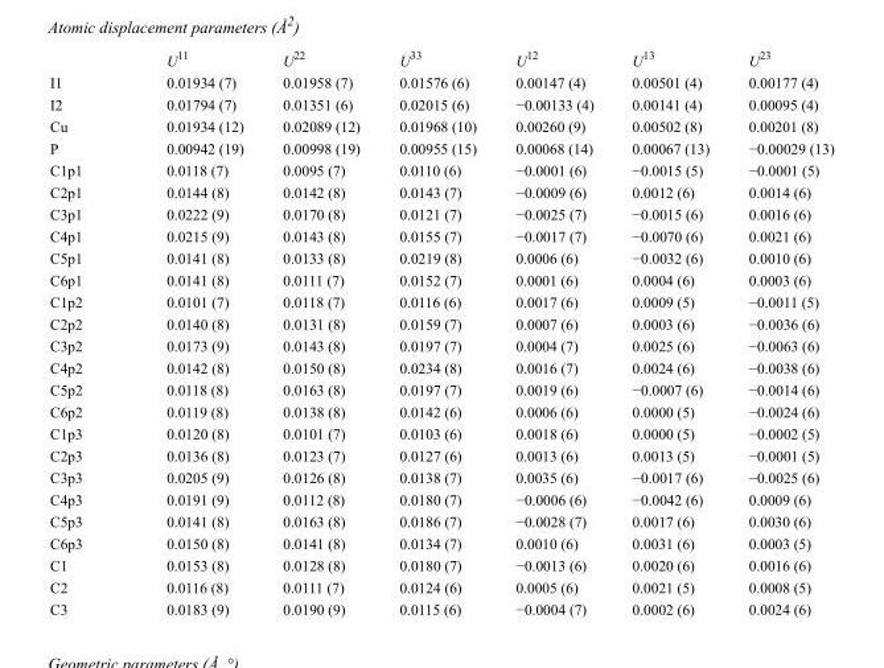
<table><thead><tr><td></td><td>U<sup>11</sup></td><td>U<sup>22</sup></td><td>U<sup>33</sup></td><td>U<sup>12</sup></td><td>U<sup>13</sup></td><td>U<sup>23</sup></td></tr></thead><tbody><tr><td>I1</td><td>0.01934 (7)</td><td>0.01958 (7)</td><td>0.01576 (6)</td><td>0.00147 (4)</td><td>0.00501 (4)</td><td>0.00177 (4)</td></tr><tr><td>I2</td><td>0.01794 (7)</td><td>0.01351 (6)</td><td>0.02015 (6)</td><td>−0.00133 (4)</td><td>0.00141 (4)</td><td>0.00095 (4)</td></tr><tr><td>Cu</td><td>0.01934 (12)</td><td>0.02089 (12)</td><td>0.01968 (10)</td><td>0.00260 (9)</td><td>0.00502 (8)</td><td>0.00201 (8)</td></tr><tr><td>P</td><td>0.00942 (19)</td><td>0.00998 (19)</td><td>0.00955 (15)</td><td>0.00068 (14)</td><td>0.00067 (13)</td><td>−0.00029 (13)</td></tr><tr><td>C1p1</td><td>0.0118 (7)</td><td>0.0095 (7)</td><td>0.0110 (6)</td><td>−0.0001 (6)</td><td>−0.0015 (5)</td><td>−0.0001 (5)</td></tr><tr><td>C2p1</td><td>0.0144 (8)</td><td>0.0142 (8)</td><td>0.0143 (7)</td><td>−0.0009 (6)</td><td>0.0012 (6)</td><td>0.0014 (6)</td></tr><tr><td>C3p1</td><td>0.0222 (9)</td><td>0.0170 (8)</td><td>0.0121 (7)</td><td>−0.0025 (7)</td><td>−0.0015 (6)</td><td>0.0016 (6)</td></tr><tr><td>C4p1</td><td>0.0215 (9)</td><td>0.0143 (8)</td><td>0.0155 (7)</td><td>−0.0017 (7)</td><td>−0.0070 (6)</td><td>0.0021 (6)</td></tr><tr><td>C5p1</td><td>0.0141 (8)</td><td>0.0133 (8)</td><td>0.0219 (8)</td><td>0.0006 (6)</td><td>−0.0032 (6)</td><td>0.0010 (6)</td></tr><tr><td>C6p1</td><td>0.0141 (8)</td><td>0.0111 (7)</td><td>0.0152 (7)</td><td>0.0001 (6)</td><td>0.0004 (6)</td><td>0.0003 (6)</td></tr><tr><td>C1p2</td><td>0.0101 (7)</td><td>0.0118 (7)</td><td>0.0116 (6)</td><td>0.0017 (6)</td><td>0.0009 (5)</td><td>−0.0011 (5)</td></tr><tr><td>C2p2</td><td>0.0140 (8)</td><td>0.0131 (8)</td><td>0.0159 (7)</td><td>0.0007 (6)</td><td>0.0003 (6)</td><td>−0.0036 (6)</td></tr><tr><td>C3p2</td><td>0.0173 (9)</td><td>0.0143 (8)</td><td>0.0197 (7)</td><td>0.0004 (7)</td><td>0.0025 (6)</td><td>−0.0063 (6)</td></tr><tr><td>C4p2</td><td>0.0142 (8)</td><td>0.0150 (8)</td><td>0.0234 (8)</td><td>0.0016 (7)</td><td>0.0024 (6)</td><td>−0.0038 (6)</td></tr><tr><td>C5p2</td><td>0.0118 (8)</td><td>0.0163 (8)</td><td>0.0197 (7)</td><td>0.0019 (6)</td><td>−0.0007 (6)</td><td>−0.0014 (6)</td></tr><tr><td>C6p2</td><td>0.0119 (8)</td><td>0.0138 (8)</td><td>0.0142 (6)</td><td>0.0006 (6)</td><td>0.0000 (5)</td><td>−0.0024 (6)</td></tr><tr><td>C1p3</td><td>0.0120 (8)</td><td>0.0101 (7)</td><td>0.0103 (6)</td><td>0.0018 (6)</td><td>0.0000 (5)</td><td>−0.0002 (5)</td></tr><tr><td>C2p3</td><td>0.0136 (8)</td><td>0.0123 (7)</td><td>0.0127 (6)</td><td>0.0013 (6)</td><td>0.0013 (5)</td><td>−0.0001 (5)</td></tr><tr><td>C3p3</td><td>0.0205 (9)</td><td>0.0126 (8)</td><td>0.0138 (7)</td><td>0.0035 (6)</td><td>−0.0017 (6)</td><td>−0.0025 (6)</td></tr><tr><td>C4p3</td><td>0.0191 (9)</td><td>0.0112 (8)</td><td>0.0180 (7)</td><td>−0.0006 (6)</td><td>−0.0042 (6)</td><td>0.0009 (6)</td></tr><tr><td>C5p3</td><td>0.0141 (8)</td><td>0.0163 (8)</td><td>0.0186 (7)</td><td>−0.0028 (7)</td><td>0.0017 (6)</td><td>0.0030 (6)</td></tr><tr><td>C6p3</td><td>0.0150 (8)</td><td>0.0141 (8)</td><td>0.0134 (7)</td><td>0.0010 (6)</td><td>0.0031 (6)</td><td>0.0003 (5)</td></tr><tr><td>C1</td><td>0.0153 (8)</td><td>0.0128 (8)</td><td>0.0180 (7)</td><td>−0.0013 (6)</td><td>0.0020 (6)</td><td>0.0016 (6)</td></tr><tr><td>C2</td><td>0.0116 (8)</td><td>0.0111 (7)</td><td>0.0124 (6)</td><td>0.0005 (6)</td><td>0.0021 (5)</td><td>0.0008 (5)</td></tr><tr><td>C3</td><td>0.0183 (9)</td><td>0.0190 (9)</td><td>0.0115 (6)</td><td>−0.0004 (7)</td><td>0.0002 (6)</td><td>0.0024 (6)</td></tr></tbody></table>